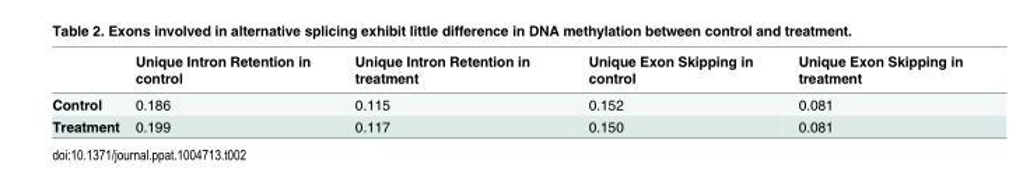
<table><thead><tr><td></td><td>Unique Intron Retention in control</td><td>Unique Intron Retention in treatment</td><td>Unique Exon Skipping in control</td><td>Unique Exon Skipping in treatment</td></tr></thead><tbody><tr><td>Control</td><td>0.186</td><td>0.115</td><td>0.152</td><td>0.081</td></tr><tr><td>Treatment</td><td>0.199</td><td>0.117</td><td>0.150</td><td>0.081</td></tr></tbody></table>